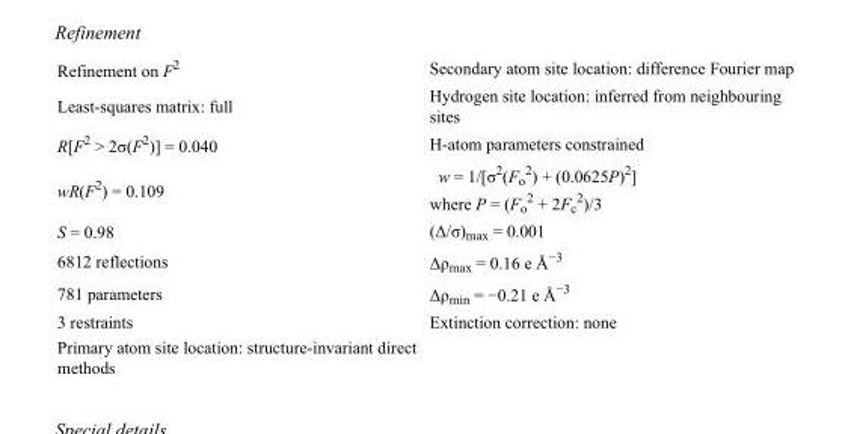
<table><tbody><tr><td>Refinement on F<sup>2</sup></td><td>Secondary atom site location: difference Fourier map</td></tr><tr><td>Least-squares matrix: full</td><td>Hydrogen site location: inferred from neighbouring sites</td></tr><tr><td>R[F<sup>2</sup> &gt; 2σ(F<sup>2</sup>)] = 0.040</td><td>H-atom parameters constrained</td></tr><tr><td>wR(F<sup>2</sup>) = 0.109</td><td>w = 1/[σ<sup>2</sup>(F<sub>o</sub> <sup>2</sup>) + (0.0625P)<sup>2</sup>] where P = (F<sub>o</sub> <sup>2</sup> + 2F<sub>c</sub> <sup>2</sup>)/3</td></tr><tr><td>S = 0.98</td><td>(Δ/σ)<sub>max</sub> = 0.001</td></tr><tr><td>6812 reflections</td><td>Δρ<sub>max</sub> = 0.16 e Å<sup>−3</sup></td></tr><tr><td>781 parameters</td><td>Δρ<sub>min</sub> = −0.21 e Å<sup>−3</sup></td></tr><tr><td>3 restraints</td><td>Extinction correction: none</td></tr><tr><td>Primary atom site location: structure-invariant direct methods</td><td></td></tr></tbody></table>